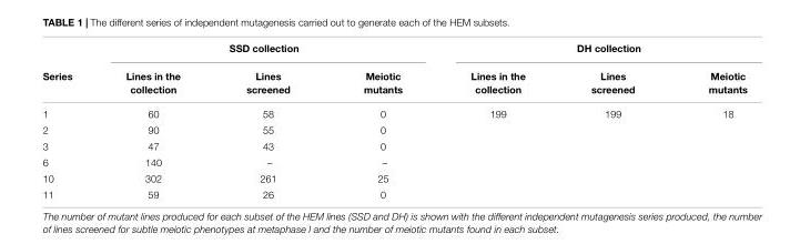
<table><thead><tr><td rowspan="2">Series</td><td colspan="3">SSD collection</td><td colspan="3">DH collection</td></tr><tr><td>Lines in the collection</td><td>Lines screened</td><td>Meiotic mutants</td><td>Lines in the collection</td><td>Lines screened</td><td>Meiotic mutants</td></tr></thead><tbody><tr><td>1</td><td>60</td><td>58</td><td>0</td><td>199</td><td>199</td><td>18</td></tr><tr><td>2</td><td>90</td><td>55</td><td>0</td><td></td><td></td><td></td></tr><tr><td>3</td><td>47</td><td>43</td><td>0</td><td></td><td></td><td></td></tr><tr><td>6</td><td>140</td><td>–</td><td>–</td><td></td><td></td><td></td></tr><tr><td>10</td><td>302</td><td>261</td><td>25</td><td></td><td></td><td></td></tr><tr><td>11</td><td>59</td><td>26</td><td>0</td><td></td><td></td><td></td></tr></tbody></table>